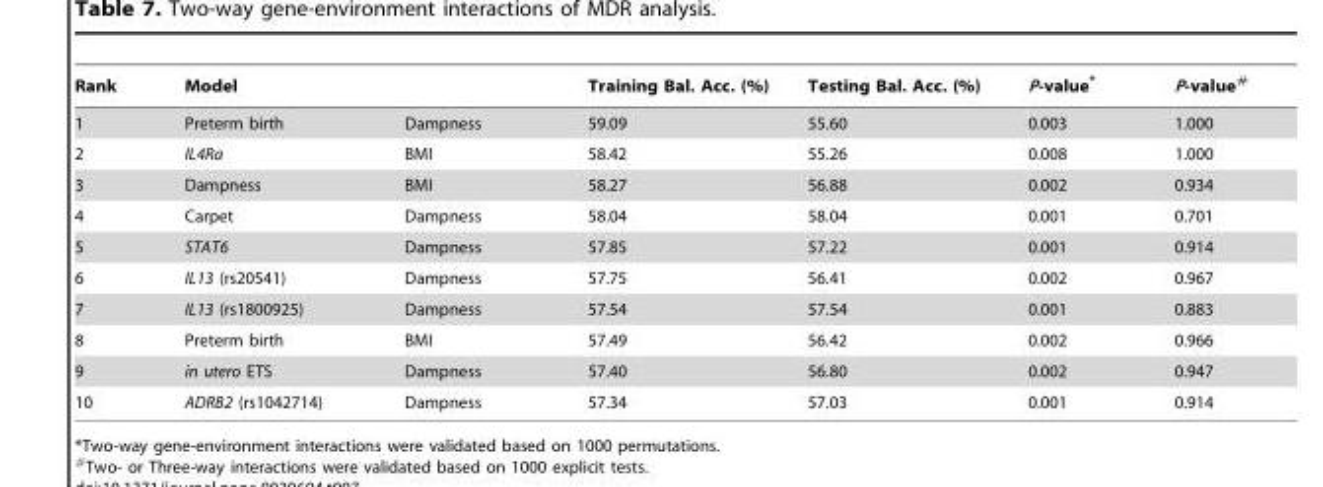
<table><thead><tr><td rowspan="2">Rank 1</td><td colspan="2">Model</td><td rowspan="2">Training Bal. Acc. (%) 59.09</td><td rowspan="2">Testing Bal. Acc. (%) 55.60</td><td rowspan="2">P-value* 0.003</td><td rowspan="2">P-value# 1.000</td></tr><tr><td>Preterm birth</td><td>Dampness</td></tr></thead><tbody><tr><td>2</td><td>IL4Ra</td><td>BMI</td><td>58.42</td><td>55.26</td><td>0.008</td><td>1.000</td></tr><tr><td>3</td><td>Dampness</td><td>BMI</td><td>58.27</td><td>56.88</td><td>0.002</td><td>0.934</td></tr><tr><td>4</td><td>Carpet</td><td>Dampness</td><td>58.04</td><td>58.04</td><td>0.001</td><td>0.701</td></tr><tr><td>5</td><td>STAT6</td><td>Dampness</td><td>57.85</td><td>57.22</td><td>0.001</td><td>0.914</td></tr><tr><td>6</td><td>IL13 (rs20541)</td><td>Dampness</td><td>57.75</td><td>56.41</td><td>0.002</td><td>0.967</td></tr><tr><td>7</td><td>IL13 (rs1800925)</td><td>Dampness</td><td>57.54</td><td>57.54</td><td>0.001</td><td>0.883</td></tr><tr><td>8</td><td>Preterm birth</td><td>BMI</td><td>57.49</td><td>56.42</td><td>0.002</td><td>0.966</td></tr><tr><td>9</td><td>in utero ETS</td><td>Dampness</td><td>57.40</td><td>56.80</td><td>0.002</td><td>0.947</td></tr><tr><td>10</td><td>ADRB2 (rs1042714)</td><td>Dampness</td><td>57.34</td><td>57.03</td><td>0.001</td><td>0.914</td></tr></tbody></table>